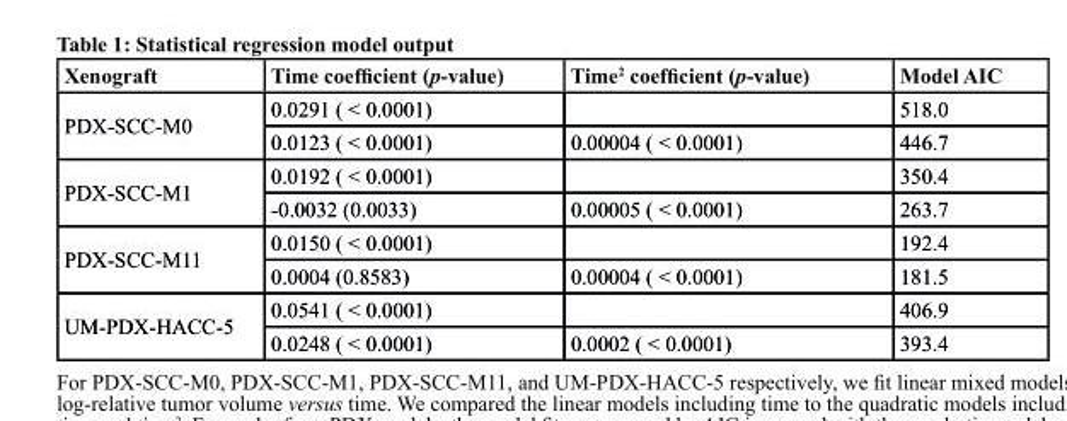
<table><thead><tr><td>Xenograft</td><td>Time coefficient (p-value)</td><td>time<sup>2</sup> coefficient (p-value)</td><td>Model AIc</td></tr></thead><tbody><tr><td rowspan="2">PDX-SCC-M0</td><td>0.0291 ( &lt; 0.0001)</td><td></td><td>518.0</td></tr><tr><td>0.0123 ( &lt; 0.0001)</td><td>0.00004 ( &lt; 0.0001)</td><td>446.7</td></tr><tr><td rowspan="2">PDX-SCC-M1</td><td>0.0192 ( &lt; 0.0001)</td><td></td><td>350.4</td></tr><tr><td>-0.0032 (0.0033)</td><td>0.00005 ( &lt; 0.0001)</td><td>263.7</td></tr><tr><td rowspan="2">PDX-SCC-M11</td><td>0.0150 ( &lt; 0.0001)</td><td></td><td>192.4</td></tr><tr><td>0.0004 (0.8583)</td><td>0.00004 ( &lt; 0.0001)</td><td>181.5</td></tr><tr><td rowspan="2">UM-PDX-HACC-5</td><td>0.0541 ( &lt; 0.0001)</td><td></td><td>406.9</td></tr><tr><td>0.0248 ( &lt; 0.0001)</td><td>0.0002 ( &lt; 0.0001)</td><td>393.4</td></tr></tbody></table>